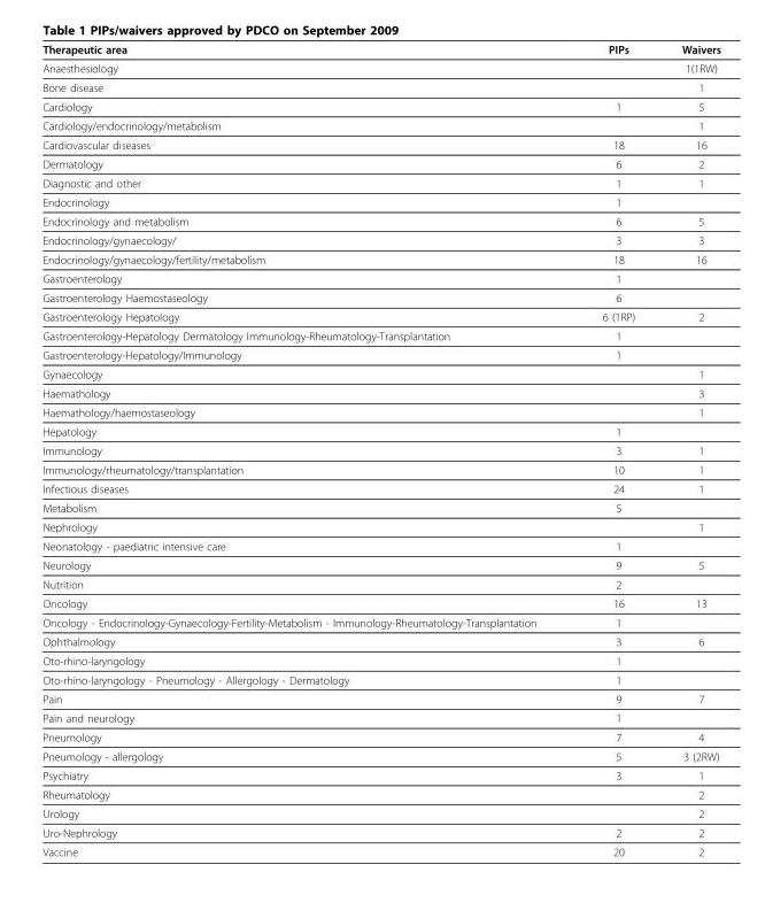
<table><thead><tr><td>Therapeutic area</td><td>PIPs</td><td>Waivers</td></tr></thead><tbody><tr><td>Anaesthesiology</td><td></td><td>1(1RW)</td></tr><tr><td>Bone disease</td><td></td><td>1</td></tr><tr><td>Cardiology</td><td>1</td><td>5</td></tr><tr><td>Cardiology/endocrinology/metabolism</td><td></td><td>1</td></tr><tr><td>Cardiovascular diseases</td><td>18</td><td>16</td></tr><tr><td>Dermatology</td><td>6</td><td>2</td></tr><tr><td>Diagnostic and other</td><td>1</td><td>1</td></tr><tr><td>Endocrinology</td><td>1</td><td></td></tr><tr><td>Endocrinology and metabolism</td><td>6</td><td>5</td></tr><tr><td>Endocrinology/gynaecology/</td><td>3</td><td>3</td></tr><tr><td>Endocrinology/gynaecology/fertility/metabolism</td><td>18</td><td>16</td></tr><tr><td>Gastroenterology</td><td>1</td><td></td></tr><tr><td>Gastroenterology Haemostaseology</td><td>6</td><td></td></tr><tr><td>Gastroenterology Hepatology</td><td>6 (1RP)</td><td>2</td></tr><tr><td>Gastroenterology-Hepatology Dermatology Immunology-Rheumatology-Transplantation</td><td>1</td><td></td></tr><tr><td>Gastroenterology-Hepatology/Immunology</td><td>1</td><td></td></tr><tr><td>Gynaecology</td><td></td><td>1</td></tr><tr><td>Haemathology</td><td></td><td>3</td></tr><tr><td>Haemathology/haemostaseology</td><td></td><td>1</td></tr><tr><td>Hepatology</td><td>1</td><td></td></tr><tr><td>Immunology</td><td>3</td><td>1</td></tr><tr><td>Immunology/rheumatology/transplantation</td><td>10</td><td>1</td></tr><tr><td>Infectious diseases</td><td>24</td><td>1</td></tr><tr><td>Metabolism</td><td>5</td><td></td></tr><tr><td>Nephrology</td><td></td><td>1</td></tr><tr><td>Neonatology - paediatric intensive care</td><td>1</td><td></td></tr><tr><td>Neurology</td><td>9</td><td>5</td></tr><tr><td>Nutrition</td><td>2</td><td></td></tr><tr><td>Oncology</td><td>16</td><td>13</td></tr><tr><td>Oncology - Endocrinology-Gynaecology-Fertility-Metabolism - Immunology-Rheumatology-Transplantation</td><td>1</td><td></td></tr><tr><td>Ophthalmology</td><td>3</td><td>6</td></tr><tr><td>Oto-rhino-laryngology</td><td>1</td><td></td></tr><tr><td>Oto-rhino-laryngology - Pneumology - Allergology - Dermatology</td><td>1</td><td></td></tr><tr><td>Pain</td><td>9</td><td>7</td></tr><tr><td>Pain and neurology</td><td>1</td><td></td></tr><tr><td>Pneumology</td><td>7</td><td>4</td></tr><tr><td>Pneumology - allergology</td><td>5</td><td>3 (2RW)</td></tr><tr><td>Psychiatry</td><td>3</td><td>1</td></tr><tr><td>Rheumatology</td><td></td><td>2</td></tr><tr><td>Urology</td><td></td><td>2</td></tr><tr><td>Uro-Nephrology</td><td>2</td><td>2</td></tr><tr><td>Vaccine</td><td>20</td><td>2</td></tr></tbody></table>